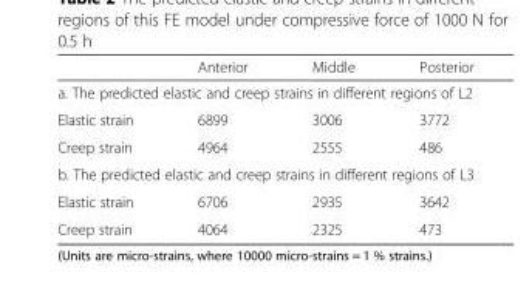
<table><thead><tr><td></td><td>Anterior</td><td>Middle</td><td>Posterior</td></tr></thead><tbody><tr><td colspan="4">a. The predicted elastic and creep strains in different regions of L2</td></tr><tr><td>Elastic strain</td><td>6899</td><td>3006</td><td>3772</td></tr><tr><td>Creep strain</td><td>4964</td><td>2555</td><td>486</td></tr><tr><td colspan="4">b. The predicted elastic and creep strains in different regions of L3</td></tr><tr><td>Elastic strain</td><td>6706</td><td>2935</td><td>3642</td></tr><tr><td>Creep strain</td><td>4064</td><td>2325</td><td>473</td></tr></tbody></table>